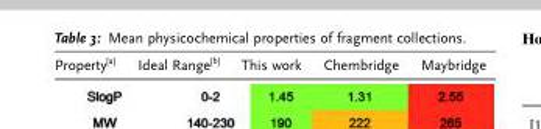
<table><thead><tr><td>Property<sup>[a]</sup></td><td>Ideal Range<sup>[b]</sup></td><td>This work</td><td>Chembridge</td><td>Maybridge</td></tr></thead><tbody></tbody></table>